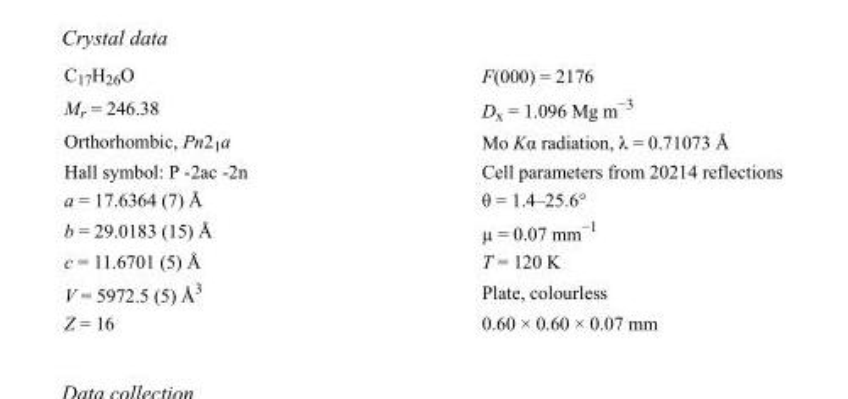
<table><tbody><tr><td>C<sub>17</sub>H<sub>26</sub>O</td><td>F(000) = 2176</td></tr><tr><td>M<sub>r</sub> = 246.38</td><td>D<sub>x</sub> = 1.096 Mg m<sup>−3</sup></td></tr><tr><td>Orthorhombic, Pn2<sub>1</sub>a</td><td>Mo Kα radiation, λ = 0.71073 Å</td></tr><tr><td>Hall symbol: P -2ac -2n</td><td>Cell parameters from 20214 reflections</td></tr><tr><td>a = 17.6364 (7) Å</td><td>θ = 1.4–25.6°</td></tr><tr><td>b = 29.0183 (15) Å</td><td>µ = 0.07 mm<sup>−1</sup></td></tr><tr><td>c = 11.6701 (5) Å</td><td>T = 120 K</td></tr><tr><td>V = 5972.5 (5) Å<sup>3</sup></td><td>Plate, colourless</td></tr><tr><td>Z = 16</td><td>0.60 × 0.60 × 0.07 mm</td></tr></tbody></table>